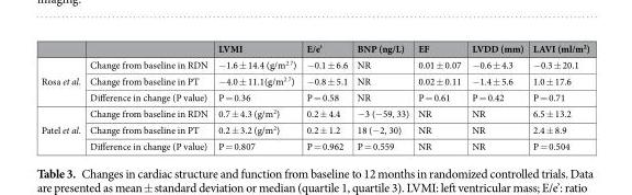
<table><thead><tr><td></td><td></td><td>LVMI</td><td>E/e’</td><td>BNP (ng/L)</td><td>EF</td><td>LVDD (mm)</td><td>LAVI (ml/m<sup>2</sup>)</td></tr></thead><tbody><tr><td rowspan="3">Rosa et al.</td><td>Change from baseline in RDN</td><td>−1.6 ± 14.4 (g/m<sup>2.7</sup>)</td><td>−0.1 ± 6.6</td><td>NR</td><td>0.01 ± 0.07</td><td>−0.6 ± 4.3</td><td>−0.3 ± 20.1</td></tr><tr><td>Change from baseline in PT</td><td>−4.0 ± 11.1(g/m<sup>2.7</sup>)</td><td>−0.8 ± 5.1</td><td>NR</td><td>0.02 ± 0.11</td><td>−1.4 ± 5.6</td><td>1.0 ± 17.6</td></tr><tr><td>Difference in change (P value)</td><td>P = 0.36</td><td>P = 0.58</td><td>NR</td><td>P = 0.61</td><td>P = 0.42</td><td>P = 0.71</td></tr><tr><td rowspan="3">Patel et al.</td><td>Change from baseline in RDN</td><td>0.7 ± 4.3 (g/m<sup>2</sup>)</td><td>0.2 ± 4.4</td><td>−3 (−59, 33)</td><td>NR</td><td>NR</td><td>6.5 ± 13.2</td></tr><tr><td>Change from baseline in PT</td><td>0.2 ± 3.2 (g/m<sup>2</sup>)</td><td>0.2 ± 1.2</td><td>18 (−2, 30)</td><td>NR</td><td>NR</td><td>2.4 ± 8.9</td></tr><tr><td>Difference in change (P value)</td><td>P = 0.807</td><td>P = 0.962</td><td>P = 0.559</td><td>NR</td><td>NR</td><td>P = 0.504</td></tr></tbody></table>